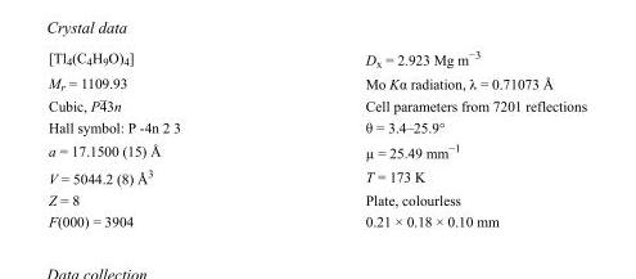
<table><tbody><tr><td>[Tl<sub>4</sub>(C<sub>4</sub>H<sub>9</sub>O)<sub>4</sub>]</td><td>D<sub>x</sub> = 2.923 Mg m<sup>−3</sup></td></tr><tr><td>M<sub>r</sub> = 1109.93</td><td>Mo Kα radiation, λ = 0.71073 Å</td></tr><tr><td>Cubic, P43n</td><td>Cell parameters from 7201 reflections</td></tr><tr><td>Hall symbol: P -4n 2 3</td><td>θ = 3.4–25.9°</td></tr><tr><td>a = 17.1500 (15) Å</td><td>µ = 25.49 mm<sup>−1</sup></td></tr><tr><td>V = 5044.2 (8) Å<sup>3</sup></td><td>T = 173 K</td></tr><tr><td>Z = 8</td><td>Plate, colourless</td></tr><tr><td>F(000) = 3904</td><td>0.21 × 0.18 × 0.10 mm</td></tr></tbody></table>